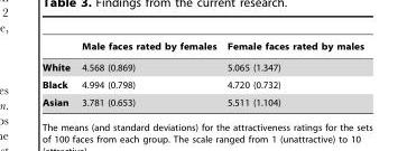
<table><thead><tr><td></td><td>Male faces rated by females</td><td>Female faces rated by males</td></tr></thead><tbody><tr><td>White</td><td>4.568 (0.869)</td><td>5.065 (1.347)</td></tr><tr><td>Black</td><td>4.994 (0.798)</td><td>4.720 (0.732)</td></tr><tr><td>Asian</td><td>3.781 (0.653)</td><td>5.511 (1.104)</td></tr></tbody></table>